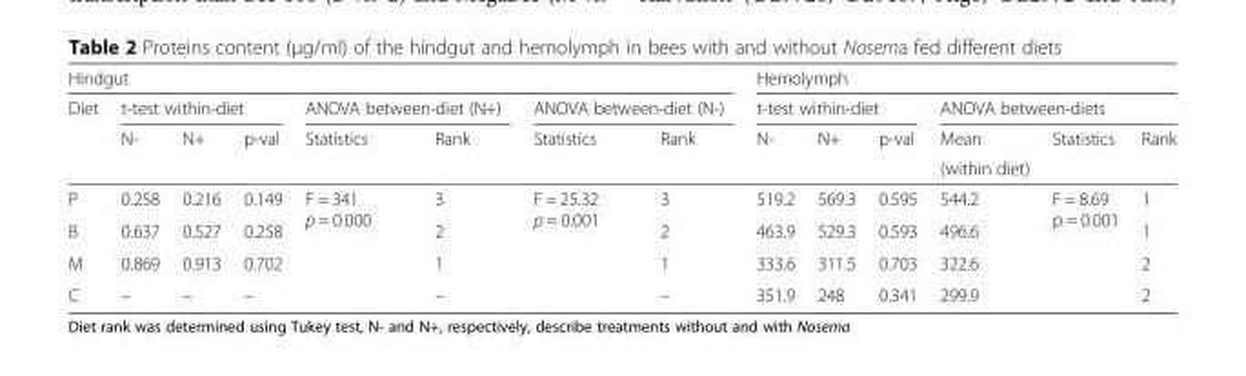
<table><thead><tr><td colspan="8">Hindgut</td><td colspan="6">Hemolymph</td></tr><tr><td rowspan="3">Diet</td><td colspan="3">t-test within-diet</td><td colspan="2">ANOVA between-diet (N+)</td><td colspan="2">ANOVA between-diet (N-)</td><td colspan="3">t-test within-diet</td><td colspan="3">ANOVA between-diets</td></tr><tr><td rowspan="2">N-</td><td rowspan="2">N+</td><td rowspan="2">p-val</td><td rowspan="2">Statistics</td><td rowspan="2">Rank</td><td rowspan="2">Statistics</td><td rowspan="2">Rank</td><td rowspan="2">N-</td><td rowspan="2">N+</td><td rowspan="2">p-val</td><td rowspan="2">Mean (within diet)</td><td rowspan="2">Statistics</td><td rowspan="2">Rank</td></tr><tr></tr></thead><tbody><tr><td>P</td><td>0.258</td><td>0.216</td><td>0.149</td><td rowspan="4">F = 341 p = 0.000</td><td>3</td><td rowspan="4">F = 25.32 p = 0.001</td><td>3</td><td>519.2</td><td>569.3</td><td>0.595</td><td>544.2</td><td rowspan="4">F = 8.69 p = 0.001</td><td>1</td></tr><tr><td>B</td><td>0.637</td><td>0.527</td><td>0.258</td><td>2</td><td>2</td><td>463.9</td><td>529.3</td><td>0.593</td><td>496.6</td><td>1</td></tr><tr><td>M</td><td>0.869</td><td>0.913</td><td>0.702</td><td>1</td><td>1</td><td>333.6</td><td>311.5</td><td>0.703</td><td>322.6</td><td>2</td></tr><tr><td>C</td><td>–</td><td>–</td><td>–</td><td>–</td><td>–</td><td>351.9</td><td>248</td><td>0.341</td><td>299.9</td><td>2</td></tr></tbody></table>